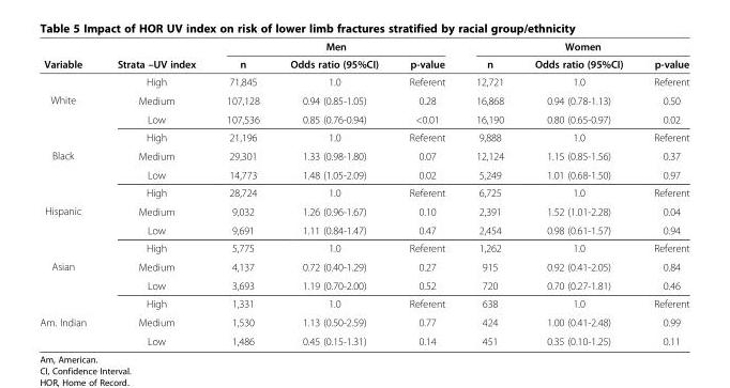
<table><thead><tr><td rowspan="2">Variable</td><td rowspan="2">Strata –UV index</td><td colspan="3">Men</td><td colspan="3">Women</td></tr><tr><td>n</td><td>Odds ratio (95%CI)</td><td>p-value</td><td>n</td><td>Odds ratio (95%CI)</td><td>p-value</td></tr></thead><tbody><tr><td rowspan="3">White</td><td>High</td><td>71,845</td><td>1.0</td><td>Referent</td><td>12,721</td><td>1.0</td><td>Referent</td></tr><tr><td>Medium</td><td>107,128</td><td>0.94 (0.85-1.05)</td><td>0.28</td><td>16,868</td><td>0.94 (0.78-1.13)</td><td>0.50</td></tr><tr><td>Low</td><td>107,536</td><td>0.85 (0.76-0.94)</td><td>&lt;0.01</td><td>16,190</td><td>0.80 (0.65-0.97)</td><td>0.02</td></tr><tr><td rowspan="3">Black</td><td>High</td><td>21,196</td><td>1.0</td><td>Referent</td><td>9,888</td><td>1.0</td><td>Referent</td></tr><tr><td>Medium</td><td>29,301</td><td>1.33 (0.98-1.80)</td><td>0.07</td><td>12,124</td><td>1.15 (0.85-1.56)</td><td>0.37</td></tr><tr><td>Low</td><td>14,773</td><td>1.48 (1.05-2.09)</td><td>0.02</td><td>5,249</td><td>1.01 (0.68-1.50)</td><td>0.97</td></tr><tr><td rowspan="3">Hispanic</td><td>High</td><td>28,724</td><td>1.0</td><td>Referent</td><td>6,725</td><td>1.0</td><td>Referent</td></tr><tr><td>Medium</td><td>9,032</td><td>1.26 (0.96-1.67)</td><td>0.10</td><td>2,391</td><td>1.52 (1.01-2.28)</td><td>0.04</td></tr><tr><td>Low</td><td>9,691</td><td>1.11 (0.84-1.47)</td><td>0.47</td><td>2,454</td><td>0.98 (0.61-1.57)</td><td>0.94</td></tr><tr><td rowspan="3">Asian</td><td>High</td><td>5,775</td><td>1.0</td><td>Referent</td><td>1,262</td><td>1.0</td><td>Referent</td></tr><tr><td>Medium</td><td>4,137</td><td>0.72 (0.40-1.29)</td><td>0.27</td><td>915</td><td>0.92 (0.41-2.05)</td><td>0.84</td></tr><tr><td>Low</td><td>3,693</td><td>1.19 (0.70-2.00)</td><td>0.52</td><td>720</td><td>0.70 (0.27-1.81)</td><td>0.46</td></tr><tr><td rowspan="3">Am. Indian</td><td>High</td><td>1,331</td><td>1.0</td><td>Referent</td><td>638</td><td>1.0</td><td>Referent</td></tr><tr><td>Medium</td><td>1,530</td><td>1.13 (0.50-2.59)</td><td>0.77</td><td>424</td><td>1.00 (0.41-2.48)</td><td>0.99</td></tr><tr><td>Low</td><td>1,486</td><td>0.45 (0.15-1.31)</td><td>0.14</td><td>451</td><td>0.35 (0.10-1.25)</td><td>0.11</td></tr></tbody></table>